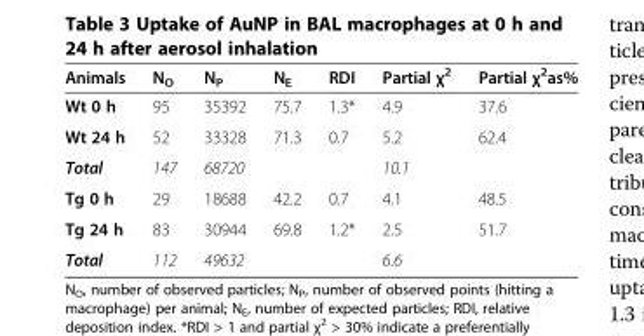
<table><thead><tr><td>Animals</td><td>N<sub>O</sub></td><td>N<sub>P</sub></td><td>N<sub>E</sub></td><td>RDI</td><td>Partial χ<sup>2</sup></td><td>Partial χ<sup>2</sup>as%</td></tr></thead><tbody><tr><td>Wt 0 h</td><td>95</td><td>35392</td><td>75.7</td><td>1.3*</td><td>4.9</td><td>37.6</td></tr><tr><td>Wt 24 h</td><td>52</td><td>33328</td><td>71.3</td><td>0.7</td><td>5.2</td><td>62.4</td></tr><tr><td>Total</td><td>147</td><td>68720</td><td></td><td></td><td>10.1</td><td></td></tr><tr><td>Tg 0 h</td><td>29</td><td>18688</td><td>42.2</td><td>0.7</td><td>4.1</td><td>48.5</td></tr><tr><td>Tg 24 h</td><td>83</td><td>30944</td><td>69.8</td><td>1.2*</td><td>2.5</td><td>51.7</td></tr><tr><td>Total</td><td>112</td><td>49632</td><td></td><td></td><td>6.6</td><td></td></tr></tbody></table>